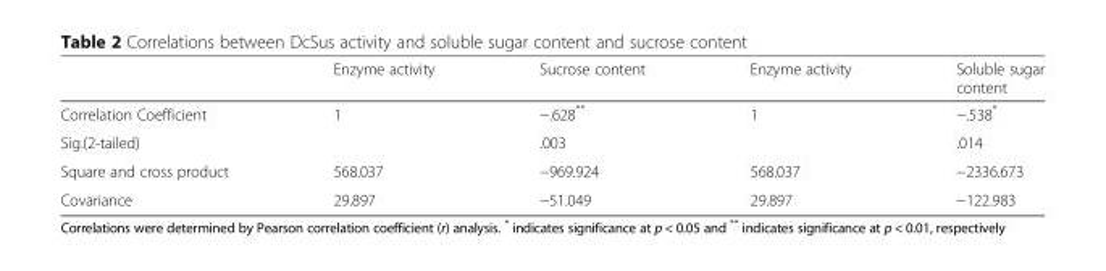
<table><thead><tr><td></td><td>Enzyme activity</td><td>Sucrose content</td><td>Enzyme activity</td><td>Soluble sugar content</td></tr></thead><tbody><tr><td>Correlation Coefficient</td><td>1</td><td>−.628**</td><td>1</td><td>−.538*</td></tr><tr><td>Sig.(2-tailed)</td><td></td><td>.003</td><td></td><td>.014</td></tr><tr><td>Square and cross product</td><td>568.037</td><td>−969.924</td><td>568.037</td><td>−2336.673</td></tr><tr><td>Covariance</td><td>29.897</td><td>−51.049</td><td>29.897</td><td>−122.983</td></tr></tbody></table>